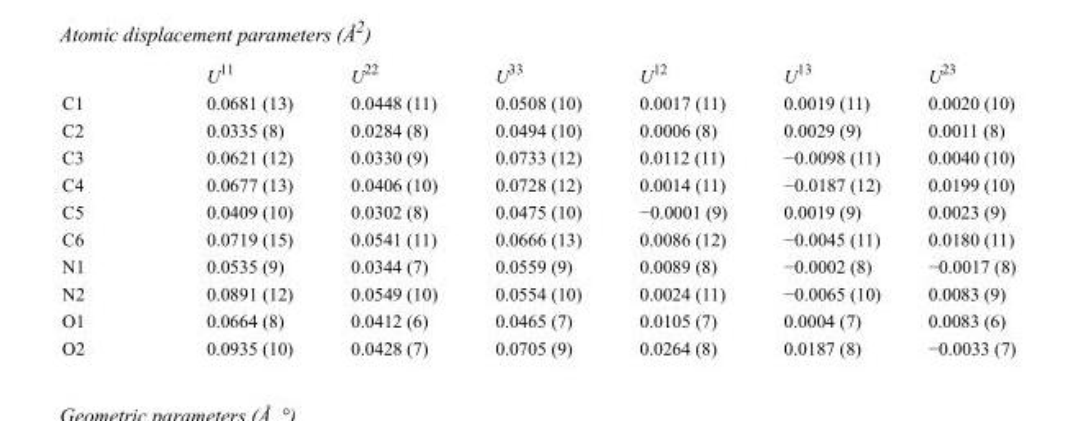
<table><thead><tr><td></td><td>U<sup>11</sup></td><td>U<sup>22</sup></td><td>U<sup>33</sup></td><td>U<sup>12</sup></td><td>U<sup>13</sup></td><td>U<sup>23</sup></td></tr></thead><tbody><tr><td>C1</td><td>0.0681 (13)</td><td>0.0448 (11)</td><td>0.0508 (10)</td><td>0.0017 (11)</td><td>0.0019 (11)</td><td>0.0020 (10)</td></tr><tr><td>C2</td><td>0.0335 (8)</td><td>0.0284 (8)</td><td>0.0494 (10)</td><td>0.0006 (8)</td><td>0.0029 (9)</td><td>0.0011 (8)</td></tr><tr><td>C3</td><td>0.0621 (12)</td><td>0.0330 (9)</td><td>0.0733 (12)</td><td>0.0112 (11)</td><td>−0.0098 (11)</td><td>0.0040 (10)</td></tr><tr><td>C4</td><td>0.0677 (13)</td><td>0.0406 (10)</td><td>0.0728 (12)</td><td>0.0014 (11)</td><td>−0.0187 (12)</td><td>0.0199 (10)</td></tr><tr><td>C5</td><td>0.0409 (10)</td><td>0.0302 (8)</td><td>0.0475 (10)</td><td>−0.0001 (9)</td><td>0.0019 (9)</td><td>0.0023 (9)</td></tr><tr><td>C6</td><td>0.0719 (15)</td><td>0.0541 (11)</td><td>0.0666 (13)</td><td>0.0086 (12)</td><td>−0.0045 (11)</td><td>0.0180 (11)</td></tr><tr><td>N1</td><td>0.0535 (9)</td><td>0.0344 (7)</td><td>0.0559 (9)</td><td>0.0089 (8)</td><td>−0.0002 (8)</td><td>−0.0017 (8)</td></tr><tr><td>N2</td><td>0.0891 (12)</td><td>0.0549 (10)</td><td>0.0554 (10)</td><td>0.0024 (11)</td><td>−0.0065 (10)</td><td>0.0083 (9)</td></tr><tr><td>O1</td><td>0.0664 (8)</td><td>0.0412 (6)</td><td>0.0465 (7)</td><td>0.0105 (7)</td><td>0.0004 (7)</td><td>0.0083 (6)</td></tr><tr><td>O2</td><td>0.0935 (10)</td><td>0.0428 (7)</td><td>0.0705 (9)</td><td>0.0264 (8)</td><td>0.0187 (8)</td><td>−0.0033 (7)</td></tr></tbody></table>